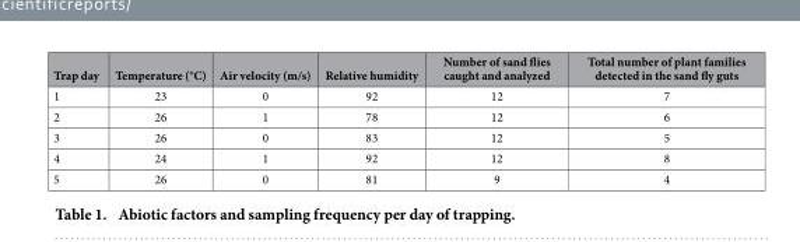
<table><thead><tr><td>Trap day</td><td>Temperature (°C)</td><td>Air velocity (m/s)</td><td>Relative humidity</td><td>Number of sand flies caught and analyzed</td><td>Total number of plant families detected in the sand fly guts</td></tr></thead><tbody><tr><td>1</td><td>23</td><td>0</td><td>92</td><td>12</td><td>7</td></tr><tr><td>2</td><td>26</td><td>1</td><td>78</td><td>12</td><td>6</td></tr><tr><td>3</td><td>26</td><td>0</td><td>83</td><td>12</td><td>5</td></tr><tr><td>4</td><td>24</td><td>1</td><td>92</td><td>12</td><td>8</td></tr><tr><td>5</td><td>26</td><td>0</td><td>81</td><td>9</td><td>4</td></tr></tbody></table>